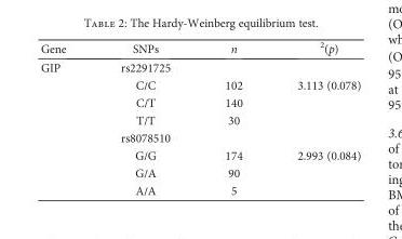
<table><thead><tr><td>Gene</td><td>SNPs</td><td>n</td><td><sup>2</sup>(p)</td></tr></thead><tbody><tr><td rowspan="8">GIP</td><td>rs2291725</td><td></td><td></td></tr><tr><td>C/C</td><td>102</td><td>3.113 (0.078)</td></tr><tr><td>C/T</td><td>140</td><td></td></tr><tr><td>T/T</td><td>30</td><td></td></tr><tr><td>rs8078510</td><td></td><td></td></tr><tr><td>G/G</td><td>174</td><td>2.993 (0.084)</td></tr><tr><td>G/A</td><td>90</td><td></td></tr><tr><td>A/A</td><td>5</td><td></td></tr></tbody></table>